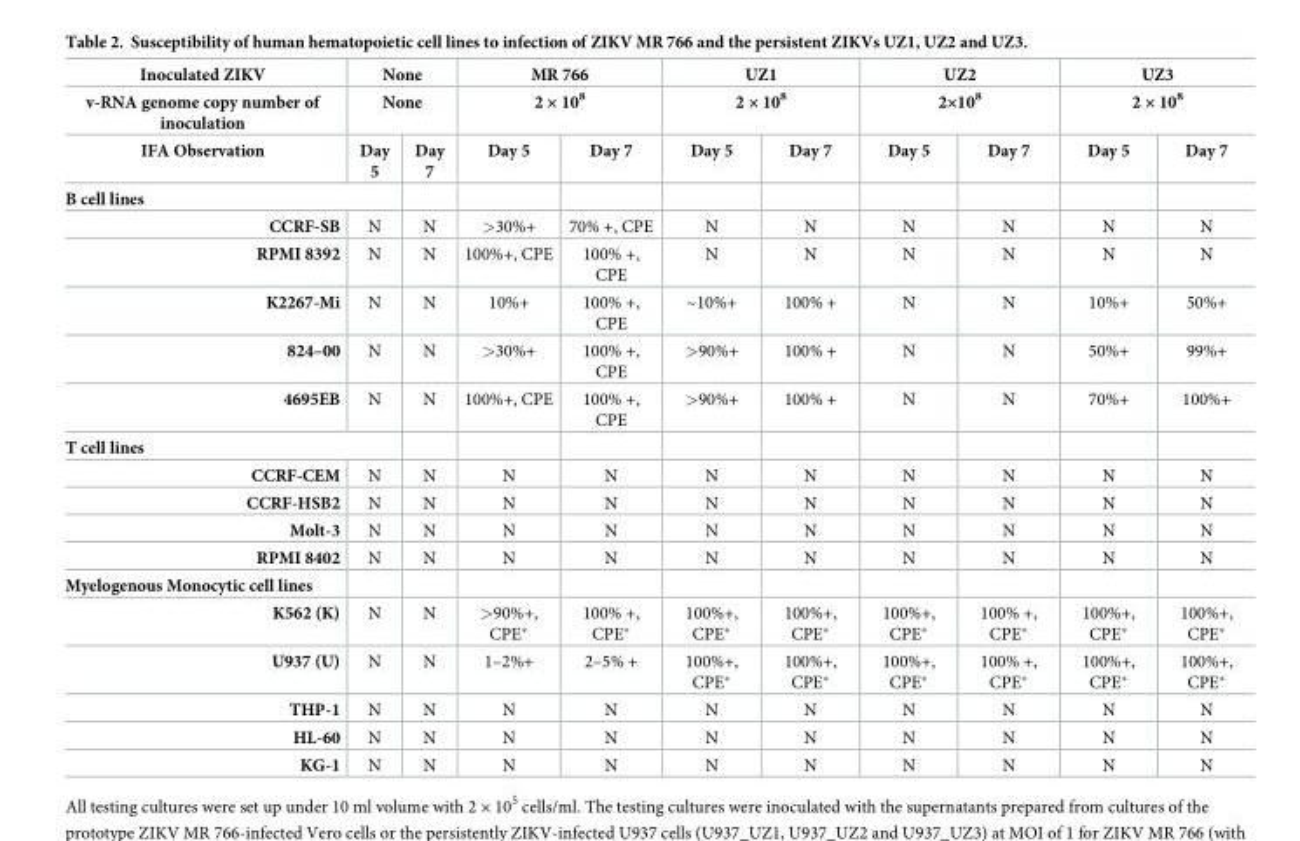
<table><thead><tr><td rowspan="3">Inoculated ZIKV v-RNA genome copy number of inoculation IFA Observation</td><td rowspan="2" colspan="2">None None</td><td rowspan="2" colspan="2">MR 766 2 × 10<sup>8</sup></td><td rowspan="2" colspan="2">UZ1 2 × 10<sup>8</sup></td><td rowspan="2" colspan="2">UZ2 2×10<sup>8</sup></td><td rowspan="2" colspan="2">UZ3 2 × 10<sup>8</sup></td></tr><tr></tr><tr><td>Day 5</td><td>Day 7</td><td>Day 5</td><td>Day 7</td><td>Day 5</td><td>Day 7</td><td>Day 5</td><td>Day 7</td><td>Day 5</td><td>Day 7</td></tr></thead><tbody><tr><td colspan="11">B cell lines</td></tr><tr><td>CCRF-SB</td><td>N</td><td>N</td><td>&gt;30%+</td><td>70% +, CPE</td><td>N</td><td>N</td><td>N</td><td>N</td><td>N</td><td>N</td></tr><tr><td>RPMI 8392</td><td>N</td><td>N</td><td>100%+, CPE</td><td>100% +, CPE</td><td>N</td><td>N</td><td>N</td><td>N</td><td>N</td><td>N</td></tr><tr><td>K2267-Mi</td><td>N</td><td>N</td><td>10%+</td><td>100% +, CPE</td><td>~10%+</td><td>100% +</td><td>N</td><td>N</td><td>10%+</td><td>50%+</td></tr><tr><td>824–00</td><td>N</td><td>N</td><td>&gt;30%+</td><td>100% +, CPE</td><td>&gt;90%+</td><td>100% +</td><td>N</td><td>N</td><td>50%+</td><td>99%+</td></tr><tr><td>4695EB</td><td>N</td><td>N</td><td>100%+, CPE</td><td>100% +, CPE</td><td>&gt;90%+</td><td>100% +</td><td>N</td><td>N</td><td>70%+</td><td>100%+</td></tr><tr><td colspan="11">T cell lines</td></tr><tr><td>CCRF-CEM</td><td>N</td><td>N</td><td>N</td><td>N</td><td>N</td><td>N</td><td>N</td><td>N</td><td>N</td><td>N</td></tr><tr><td>CCRF-HSB2</td><td>N</td><td>N</td><td>N</td><td>N</td><td>N</td><td>N</td><td>N</td><td>N</td><td>N</td><td>N</td></tr><tr><td>Molt-3</td><td>N</td><td>N</td><td>N</td><td>N</td><td>N</td><td>N</td><td>N</td><td>N</td><td>N</td><td>N</td></tr><tr><td>RPMI 8402</td><td>N</td><td>N</td><td>N</td><td>N</td><td>N</td><td>N</td><td>N</td><td>N</td><td>N</td><td>N</td></tr><tr><td colspan="11">Myelogenous Monocytic cell lines</td></tr><tr><td>K562 (K)</td><td>N</td><td>N</td><td>&gt;90%+, CPE*</td><td>100% +, CPE*</td><td>100%+, CPE*</td><td>100%+, CPE*</td><td>100%+, CPE*</td><td>100% +, CPE*</td><td>100%+, CPE*</td><td>100%+, CPE*</td></tr><tr><td>U937 (U)</td><td>N</td><td>N</td><td>1–2%+</td><td>2–5% +</td><td>100%+, CPE*</td><td>100%+, CPE*</td><td>100%+, CPE*</td><td>100% +, CPE*</td><td>100%+, CPE*</td><td>100%+, CPE*</td></tr><tr><td>THP-1</td><td>N</td><td>N</td><td>N</td><td>N</td><td>N</td><td>N</td><td>N</td><td>N</td><td>N</td><td>N</td></tr><tr><td>HL-60</td><td>N</td><td>N</td><td>N</td><td>N</td><td>N</td><td>N</td><td>N</td><td>N</td><td>N</td><td>N</td></tr><tr><td>KG-1</td><td>N</td><td>N</td><td>N</td><td>N</td><td>N</td><td>N</td><td>N</td><td>N</td><td>N</td><td>N</td></tr></tbody></table>